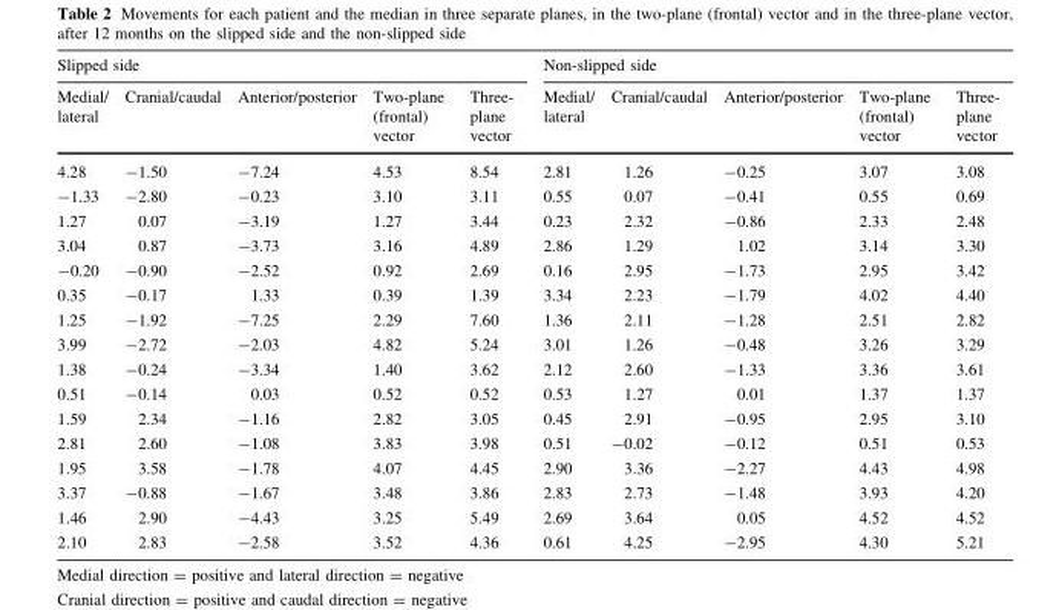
<table><thead><tr><td colspan="5">Slipped side</td><td colspan="5">Non-slipped side</td></tr><tr><td>Medial/ lateral</td><td>Cranial/caudal</td><td>Anterior/posterior</td><td>Two-plane (frontal) vector</td><td>Three- plane vector</td><td>Medial/ lateral</td><td>Cranial/caudal</td><td>Anterior/posterior</td><td>Two-plane (frontal) vector</td><td>Three- plane vector</td></tr></thead><tbody><tr><td>4.28</td><td>-1.50</td><td>-7.24</td><td>4.53</td><td>8.54</td><td>2.81</td><td>1.26</td><td>-0.25</td><td>3.07</td><td>3.08</td></tr><tr><td>-1.33</td><td>-2.80</td><td>-0.23</td><td>3.10</td><td>3.11</td><td>0.55</td><td>0.07</td><td>-0.41</td><td>0.55</td><td>0.69</td></tr><tr><td>1.27</td><td>0.07</td><td>-3.19</td><td>1.27</td><td>3.44</td><td>0.23</td><td>2.32</td><td>-0.86</td><td>2.33</td><td>2.48</td></tr><tr><td>3.04</td><td>0.87</td><td>-3.73</td><td>3.16</td><td>4.89</td><td>2.86</td><td>1.29</td><td>1.02</td><td>3.14</td><td>3.30</td></tr><tr><td>-0.20</td><td>-0.90</td><td>-2.52</td><td>0.92</td><td>2.69</td><td>0.16</td><td>2.95</td><td>-1.73</td><td>2.95</td><td>3.42</td></tr><tr><td>0.35</td><td>-0.17</td><td>1.33</td><td>0.39</td><td>1.39</td><td>3.34</td><td>2.23</td><td>-1.79</td><td>4.02</td><td>4.40</td></tr><tr><td>1.25</td><td>-1.92</td><td>-7.25</td><td>2.29</td><td>7.60</td><td>1.36</td><td>2.11</td><td>-1.28</td><td>2.51</td><td>2.82</td></tr><tr><td>3.99</td><td>-2.72</td><td>-2.03</td><td>4.82</td><td>5.24</td><td>3.01</td><td>1.26</td><td>-0.48</td><td>3.26</td><td>3.29</td></tr><tr><td>1.38</td><td>-0.24</td><td>-3.34</td><td>1.40</td><td>3.62</td><td>2.12</td><td>2.60</td><td>-1.33</td><td>3.36</td><td>3.61</td></tr><tr><td>0.51</td><td>-0.14</td><td>0.03</td><td>0.52</td><td>0.52</td><td>0.53</td><td>1.27</td><td>0.01</td><td>1.37</td><td>1.37</td></tr><tr><td>1.59</td><td>2.34</td><td>-1.16</td><td>2.82</td><td>3.05</td><td>0.45</td><td>2.91</td><td>-0.95</td><td>2.95</td><td>3.10</td></tr><tr><td>2.81</td><td>2.60</td><td>-1.08</td><td>3.83</td><td>3.98</td><td>0.51</td><td>-0.02</td><td>-0.12</td><td>0.51</td><td>0.53</td></tr><tr><td>1.95</td><td>3.58</td><td>-1.78</td><td>4.07</td><td>4.45</td><td>2.90</td><td>3.36</td><td>-2.27</td><td>4.43</td><td>4.98</td></tr><tr><td>3.37</td><td>-0.88</td><td>-1.67</td><td>3.48</td><td>3.86</td><td>2.83</td><td>2.73</td><td>-1.48</td><td>3.93</td><td>4.20</td></tr><tr><td>1.46</td><td>2.90</td><td>-4.43</td><td>3.25</td><td>5.49</td><td>2.69</td><td>3.64</td><td>0.05</td><td>4.52</td><td>4.52</td></tr><tr><td>2.10</td><td>2.83</td><td>-2.58</td><td>3.52</td><td>4.36</td><td>0.61</td><td>4.25</td><td>-2.95</td><td>4.30</td><td>5.21</td></tr></tbody></table>